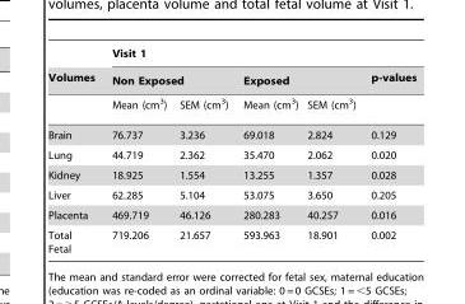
<table><thead><tr><td rowspan="3">Volumes</td><td colspan="5">Visit 1</td></tr><tr><td colspan="2">Non Exposed</td><td colspan="2">Exposed</td><td rowspan="2">p-values</td></tr><tr><td>Mean (cm<sup>3</sup>)</td><td>SEM (cm<sup>3</sup>)</td><td>Mean (cm<sup>3</sup>)</td><td>SEM (cm<sup>3</sup>)</td></tr></thead><tbody><tr><td>Brain</td><td>76.737</td><td>3.236</td><td>69.018</td><td>2.824</td><td>0.129</td></tr><tr><td>Lung</td><td>44.719</td><td>2.362</td><td>35.470</td><td>2.062</td><td>0.020</td></tr><tr><td>Kidney</td><td>18.925</td><td>1.554</td><td>13.255</td><td>1.357</td><td>0.028</td></tr><tr><td>Liver</td><td>62.285</td><td>5.104</td><td>53.075</td><td>3.650</td><td>0.205</td></tr><tr><td>Placenta</td><td>469.719</td><td>46.126</td><td>280.283</td><td>40.257</td><td>0.016</td></tr><tr><td>Total Fetal</td><td>719.206</td><td>21.657</td><td>593.963</td><td>18.901</td><td>0.002</td></tr></tbody></table>